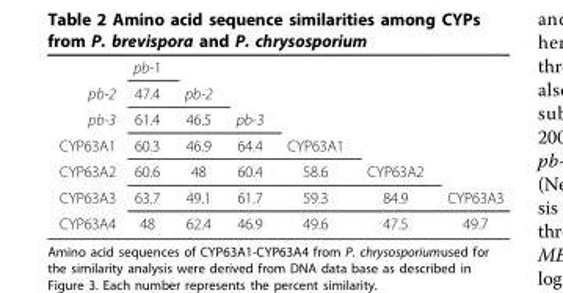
<table><thead><tr><td></td><td>pb-1</td><td></td><td></td><td></td><td></td><td></td></tr></thead><tbody><tr><td>pb-2</td><td>47.4</td><td>pb-2</td><td></td><td></td><td></td><td></td></tr><tr><td>pb-3</td><td>61.4</td><td>46.5</td><td>pb-3</td><td></td><td></td><td></td></tr><tr><td>CYP63A1</td><td>60.3</td><td>46.9</td><td>64.4</td><td>CYP63A1</td><td></td><td></td></tr><tr><td>CYP63A2</td><td>60.6</td><td>48</td><td>60.4</td><td>58.6</td><td>CYP63A2</td><td></td></tr><tr><td>CYP63A3</td><td>63.7</td><td>49.1</td><td>61.7</td><td>59.3</td><td>84.9</td><td>CYP63A3</td></tr><tr><td>CYP63A4</td><td>48</td><td>62.4</td><td>46.9</td><td>49.6</td><td>47.5</td><td>49.7</td></tr></tbody></table>